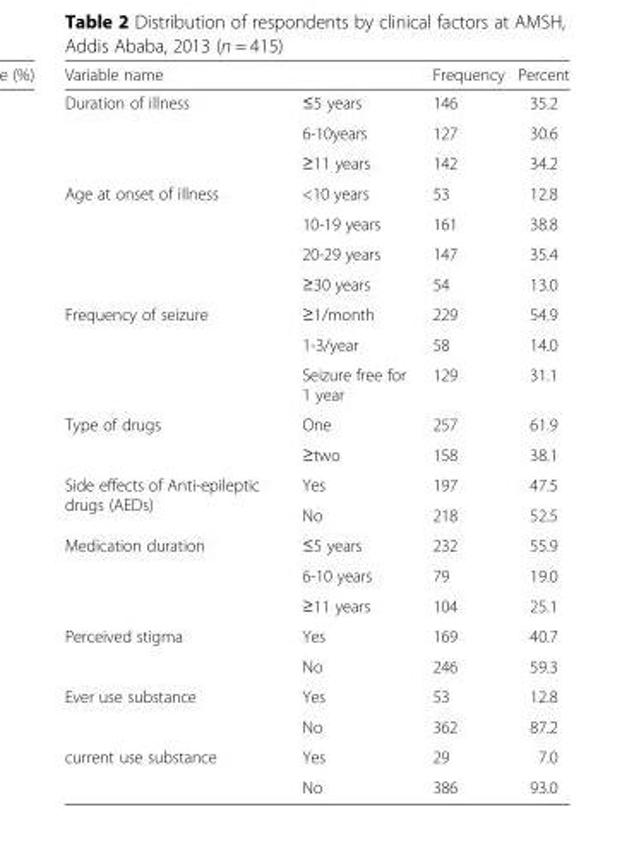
<table><thead><tr><td>Variable name</td><td></td><td>Frequency</td><td>Percent</td></tr></thead><tbody><tr><td rowspan="3">Duration of illness</td><td>≤5 years</td><td>146</td><td>35.2</td></tr><tr><td>6-10years</td><td>127</td><td>30.6</td></tr><tr><td>≥11 years</td><td>142</td><td>34.2</td></tr><tr><td rowspan="4">Age at onset of illness</td><td>&lt;10 years</td><td>53</td><td>12.8</td></tr><tr><td>10-19 years</td><td>161</td><td>38.8</td></tr><tr><td>20-29 years</td><td>147</td><td>35.4</td></tr><tr><td>≥30 years</td><td>54</td><td>13.0</td></tr><tr><td rowspan="3">Frequency of seizure</td><td>≥1/month</td><td>229</td><td>54.9</td></tr><tr><td>1-3/year</td><td>58</td><td>14.0</td></tr><tr><td>Seizure free for 1 year</td><td>129</td><td>31.1</td></tr><tr><td rowspan="2">Type of drugs</td><td>One</td><td>257</td><td>61.9</td></tr><tr><td>≥two</td><td>158</td><td>38.1</td></tr><tr><td rowspan="2">Side effects of Anti-epileptic drugs (AEDs)</td><td>Yes</td><td>197</td><td>47.5</td></tr><tr><td>No</td><td>218</td><td>52.5</td></tr><tr><td rowspan="3">Medication duration</td><td>≤5 years</td><td>232</td><td>55.9</td></tr><tr><td>6-10 years</td><td>79</td><td>19.0</td></tr><tr><td>≥11 years</td><td>104</td><td>25.1</td></tr><tr><td rowspan="2">Perceived stigma</td><td>Yes</td><td>169</td><td>40.7</td></tr><tr><td>No</td><td>246</td><td>59.3</td></tr><tr><td rowspan="2">Ever use substance</td><td>Yes</td><td>53</td><td>12.8</td></tr><tr><td>No</td><td>362</td><td>87.2</td></tr><tr><td rowspan="2">current use substance</td><td>Yes</td><td>29</td><td>7.0</td></tr><tr><td>No</td><td>386</td><td>93.0</td></tr></tbody></table>